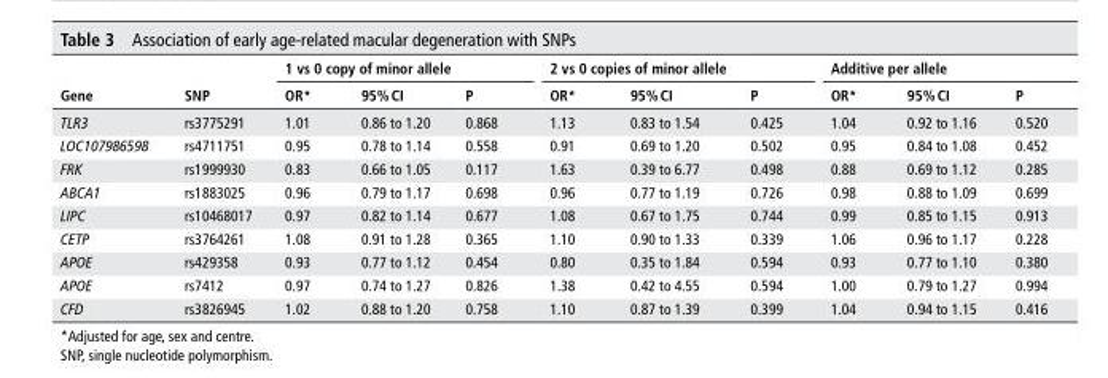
<table><thead><tr><td rowspan="2">Gene</td><td rowspan="2">snP</td><td colspan="3">1 vs 0 copy of minor allele</td><td colspan="3">2 vs 0 copies of minor allele</td><td colspan="3">Additive per allele</td></tr><tr><td>or*</td><td>95% CI</td><td>P</td><td>or*</td><td>95% CI</td><td>P</td><td>or*</td><td>95% CI</td><td>P</td></tr></thead><tbody><tr><td>TLR3</td><td>rs3775291</td><td>1.01</td><td>0.86 to 1.20</td><td>0.868</td><td>1.13</td><td>0.83 to 1.54</td><td>0.425</td><td>1.04</td><td>0.92 to 1.16</td><td>0.520</td></tr><tr><td>LOC107986598</td><td>rs4711751</td><td>0.95</td><td>0.78 to 1.14</td><td>0.558</td><td>0.91</td><td>0.69 to 1.20</td><td>0.502</td><td>0.95</td><td>0.84 to 1.08</td><td>0.452</td></tr><tr><td>FRK</td><td>rs1999930</td><td>0.83</td><td>0.66 to 1.05</td><td>0.117</td><td>1.63</td><td>0.39 to 6.77</td><td>0.498</td><td>0.88</td><td>0.69 to 1.12</td><td>0.285</td></tr><tr><td>ABCA1</td><td>rs1883025</td><td>0.96</td><td>0.79 to 1.17</td><td>0.698</td><td>0.96</td><td>0.77 to 1.19</td><td>0.726</td><td>0.98</td><td>0.88 to 1.09</td><td>0.699</td></tr><tr><td>LIPC</td><td>rs10468017</td><td>0.97</td><td>0.82 to 1.14</td><td>0.677</td><td>1.08</td><td>0.67 to 1.75</td><td>0.744</td><td>0.99</td><td>0.85 to 1.15</td><td>0.913</td></tr><tr><td>CETP</td><td>rs3764261</td><td>1.08</td><td>0.91 to 1.28</td><td>0.365</td><td>1.10</td><td>0.90 to 1.33</td><td>0.339</td><td>1.06</td><td>0.96 to 1.17</td><td>0.228</td></tr><tr><td>APOE</td><td>rs429358</td><td>0.93</td><td>0.77 to 1.12</td><td>0.454</td><td>0.80</td><td>0.35 to 1.84</td><td>0.594</td><td>0.93</td><td>0.77 to 1.10</td><td>0.380</td></tr><tr><td>APOE</td><td>rs7412</td><td>0.97</td><td>0.74 to 1.27</td><td>0.826</td><td>1.38</td><td>0.42 to 4.55</td><td>0.594</td><td>1.00</td><td>0.79 to 1.27</td><td>0.994</td></tr><tr><td>CFD</td><td>rs3826945</td><td>1.02</td><td>0.88 to 1.20</td><td>0.758</td><td>1.10</td><td>0.87 to 1.39</td><td>0.399</td><td>1.04</td><td>0.94 to 1.15</td><td>0.416</td></tr></tbody></table>